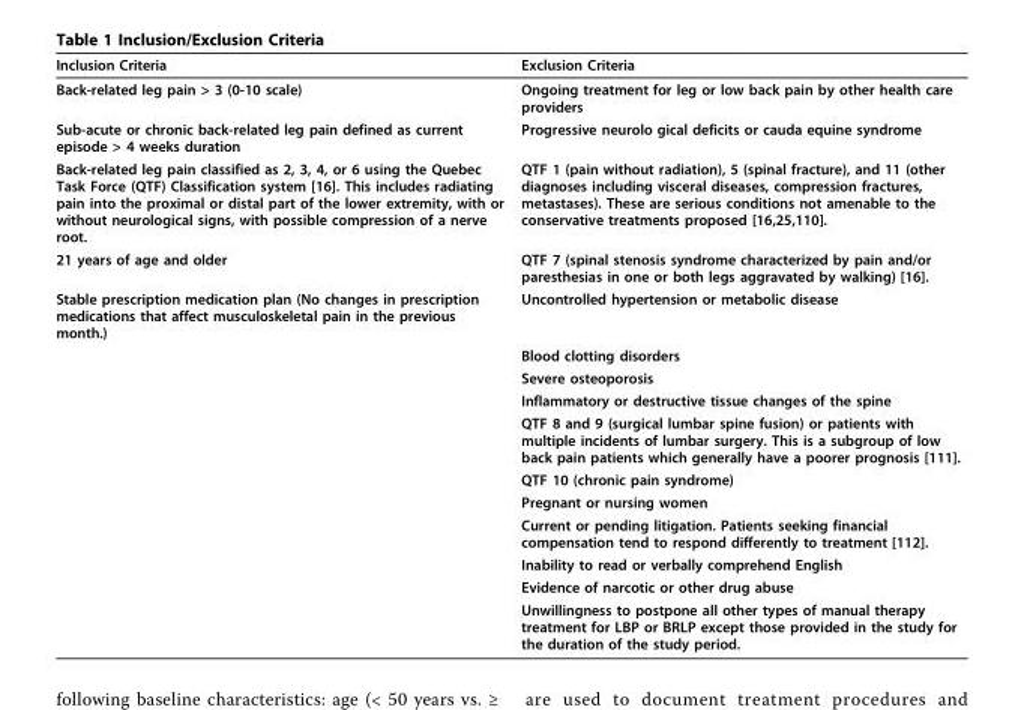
<table><thead><tr><td>Inclusion Criteria</td><td>Exclusion Criteria</td></tr></thead><tbody><tr><td>Back-related leg pain &gt; 3 (0-10 scale)</td><td>Ongoing treatment for leg or low back pain by other health care providers</td></tr><tr><td>Sub-acute or chronic back-related leg pain defined as current episode &gt; 4 weeks duration</td><td>Progressive neurolo gical deficits or cauda equine syndrome</td></tr><tr><td>Back-related leg pain classified as 2, 3, 4, or 6 using the Quebec Task Force (QTF) Classification system [16]. This includes radiating pain into the proximal or distal part of the lower extremity, with or without neurological signs, with possible compression of a nerve root.</td><td>QTF 1 (pain without radiation), 5 (spinal fracture), and 11 (other diagnoses including visceral diseases, compression fractures, metastases). These are serious conditions not amenable to the conservative treatments proposed [16,25,110].</td></tr><tr><td>21 years of age and older</td><td>QTF 7 (spinal stenosis syndrome characterized by pain and/or paresthesias in one or both legs aggravated by walking) [16].</td></tr><tr><td rowspan="11">Stable prescription medication plan (No changes in prescription medications that affect musculoskeletal pain in the previous month.)</td><td>Uncontrolled hypertension or metabolic disease</td></tr><tr><td>Blood clotting disorders</td></tr><tr><td>Severe osteoporosis</td></tr><tr><td>Inflammatory or destructive tissue changes of the spine</td></tr><tr><td>QTF 8 and 9 (surgical lumbar spine fusion) or patients with multiple incidents of lumbar surgery. This is a subgroup of low back pain patients which generally have a poorer prognosis [111].</td></tr><tr><td>QTF 10 (chronic pain syndrome)</td></tr><tr><td>Pregnant or nursing women</td></tr><tr><td>Current or pending litigation. Patients seeking financial compensation tend to respond differently to treatment [112].</td></tr><tr><td>Inability to read or verbally comprehend English</td></tr><tr><td>Evidence of narcotic or other drug abuse</td></tr><tr><td>Unwillingness to postpone all other types of manual therapy treatment for LBP or BRLP except those provided in the study for the duration of the study period.</td></tr></tbody></table>